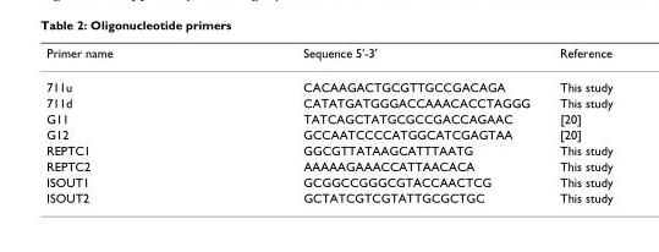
<table><thead><tr><td>Primer name</td><td>Sequence 5&#x27;-3&#x27;</td><td>Reference</td></tr></thead><tbody><tr><td>711u</td><td>CACAAGACTGCGTTGCCGACAGA</td><td>This study</td></tr><tr><td>711d</td><td>CATATGATGGGACCAAACACCTAGGG</td><td>This study</td></tr><tr><td>G11</td><td>TATCAGCTATGCGCCGACCAGAAC</td><td>[20]</td></tr><tr><td>G12</td><td>GCCAATCCCCATGGCATCGAGTAA</td><td>[20]</td></tr><tr><td>REPTC1</td><td>GGCGTTATAAGCATTTAATG</td><td>This study</td></tr><tr><td>REPTC2</td><td>AAAAAGAAACCATTAACACA</td><td>This study</td></tr><tr><td>ISOUT1</td><td>GCGGCCGGGCGTACCAACTCG</td><td>This study</td></tr><tr><td>ISOUT2</td><td>GCTATCGTCGTATTGCGCTGC</td><td>This study</td></tr></tbody></table>